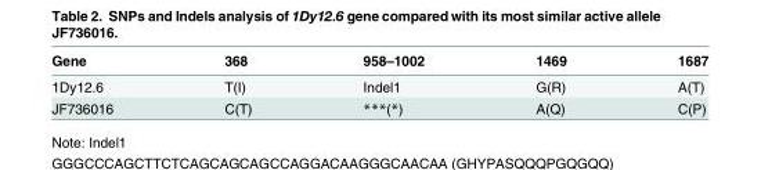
<table><thead><tr><td>Gene</td><td>368</td><td>958–1002</td><td>1469</td><td>1687</td></tr></thead><tbody><tr><td>1Dy12.6</td><td>T(I)</td><td>Indel1</td><td>G(R)</td><td>A(T)</td></tr><tr><td>JF736016</td><td>C(T)</td><td>***(*)</td><td>A(Q)</td><td>C(P)</td></tr></tbody></table>